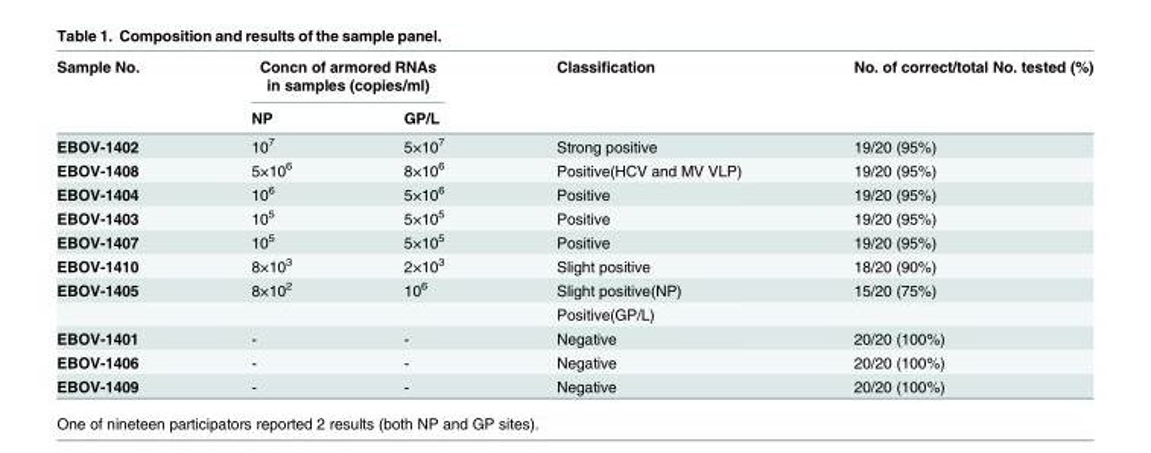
<table><thead><tr><td rowspan="2">Sample No.</td><td colspan="2">Concn of armored RNAs in samples (copies/ml)</td><td rowspan="2">Classification</td><td rowspan="2">No. of correct/total No. tested (%)</td></tr><tr><td>NP</td><td>GP/L</td></tr></thead><tbody><tr><td>EBOV-1402</td><td>10<sup>7</sup></td><td>5×10<sup>7</sup></td><td>Strong positive</td><td>19/20 (95%)</td></tr><tr><td>EBOV-1408</td><td>5×10<sup>6</sup></td><td>8×10<sup>6</sup></td><td>Positive(HCV and MV VLP)</td><td>19/20 (95%)</td></tr><tr><td>EBOV-1404</td><td>10<sup>6</sup></td><td>5×10<sup>6</sup></td><td>Positive</td><td>19/20 (95%)</td></tr><tr><td>EBOV-1403</td><td>10<sup>5</sup></td><td>5×10<sup>5</sup></td><td>Positive</td><td>19/20 (95%)</td></tr><tr><td>EBOV-1407</td><td>10<sup>5</sup></td><td>5×10<sup>5</sup></td><td>Positive</td><td>19/20 (95%)</td></tr><tr><td>EBOV-1410</td><td>8×10<sup>3</sup></td><td>2×10<sup>3</sup></td><td>Slight positive</td><td>18/20 (90%)</td></tr><tr><td rowspan="2">EBOV-1405</td><td>8×10<sup>2</sup></td><td>10<sup>6</sup></td><td>Slight positive(NP)</td><td>15/20 (75%)</td></tr><tr><td></td><td></td><td>Positive(GP/L)</td><td></td></tr><tr><td>EBOV-1401</td><td>-</td><td>-</td><td>Negative</td><td>20/20 (100%)</td></tr><tr><td>EBOV-1406</td><td>-</td><td>-</td><td>Negative</td><td>20/20 (100%)</td></tr><tr><td>EBOV-1409</td><td>-</td><td>-</td><td>Negative</td><td>20/20 (100%)</td></tr></tbody></table>